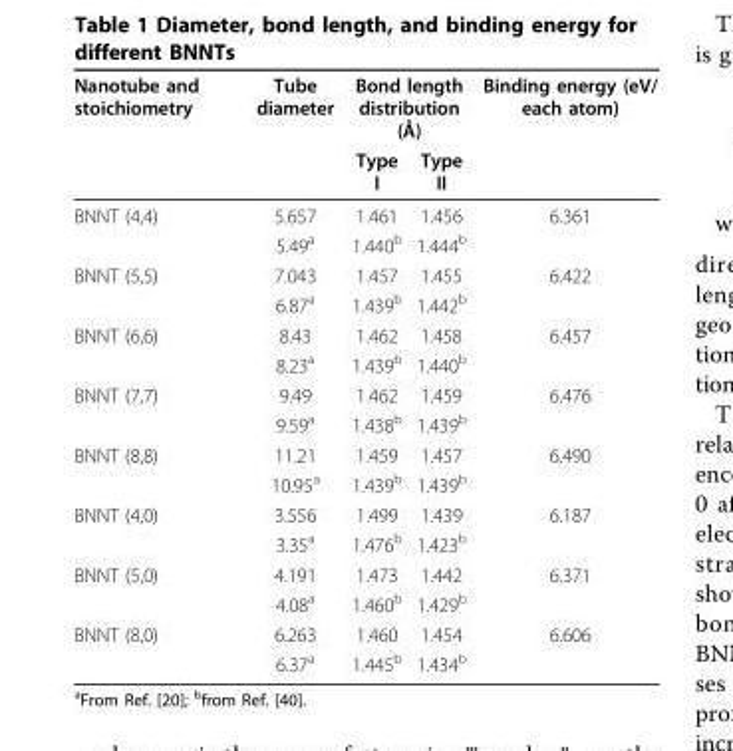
<table><thead><tr><td rowspan="2">Nanotube and stoichiometry</td><td rowspan="2">Tube diameter</td><td colspan="2">Bond length distribution (Å)</td><td rowspan="2">Binding energy (eV/ each atom)</td></tr><tr><td>Type I</td><td>Type II</td></tr></thead><tbody><tr><td rowspan="2">BNNT (4,4)</td><td>5.657</td><td>1.461</td><td>1.456</td><td>6.361</td></tr><tr><td>5.49<sup>a</sup></td><td>1.440<sup>b</sup></td><td>1.444<sup>b</sup></td><td></td></tr><tr><td rowspan="2">BNNT (5,5)</td><td>7.043</td><td>1.457</td><td>1.455</td><td>6.422</td></tr><tr><td>6.87<sup>a</sup></td><td>1.439<sup>b</sup></td><td>1.442<sup>b</sup></td><td></td></tr><tr><td rowspan="2">BNNT (6,6)</td><td>8.43</td><td>1.462</td><td>1.458</td><td>6.457</td></tr><tr><td>8.23<sup>a</sup></td><td>1.439<sup>b</sup></td><td>1.440<sup>b</sup></td><td></td></tr><tr><td rowspan="2">BNNT (7,7)</td><td>9.49</td><td>1.462</td><td>1.459</td><td>6.476</td></tr><tr><td>9.59<sup>a</sup></td><td>1.438<sup>b</sup></td><td>1.439<sup>b</sup></td><td></td></tr><tr><td rowspan="2">BNNT (8,8)</td><td>11.21</td><td>1.459</td><td>1.457</td><td>6.490</td></tr><tr><td>10.95<sup>a</sup></td><td>1.439<sup>b</sup></td><td>1.439<sup>b</sup></td><td></td></tr><tr><td rowspan="2">BNNT (4,0)</td><td>3.556</td><td>1.499</td><td>1.439</td><td>6.187</td></tr><tr><td>3.35<sup>a</sup></td><td>1.476<sup>b</sup></td><td>1.423<sup>b</sup></td><td></td></tr><tr><td rowspan="2">BNNT (5,0)</td><td>4.191</td><td>1.473</td><td>1.442</td><td>6.371</td></tr><tr><td>4.08<sup>a</sup></td><td>1.460<sup>b</sup></td><td>1.429<sup>b</sup></td><td></td></tr><tr><td rowspan="2">BNNT (8,0)</td><td>6.263</td><td>1.460</td><td>1.454</td><td>6.606</td></tr><tr><td>6.37<sup>a</sup></td><td>1.445<sup>b</sup></td><td>1.434<sup>b</sup></td><td></td></tr></tbody></table>